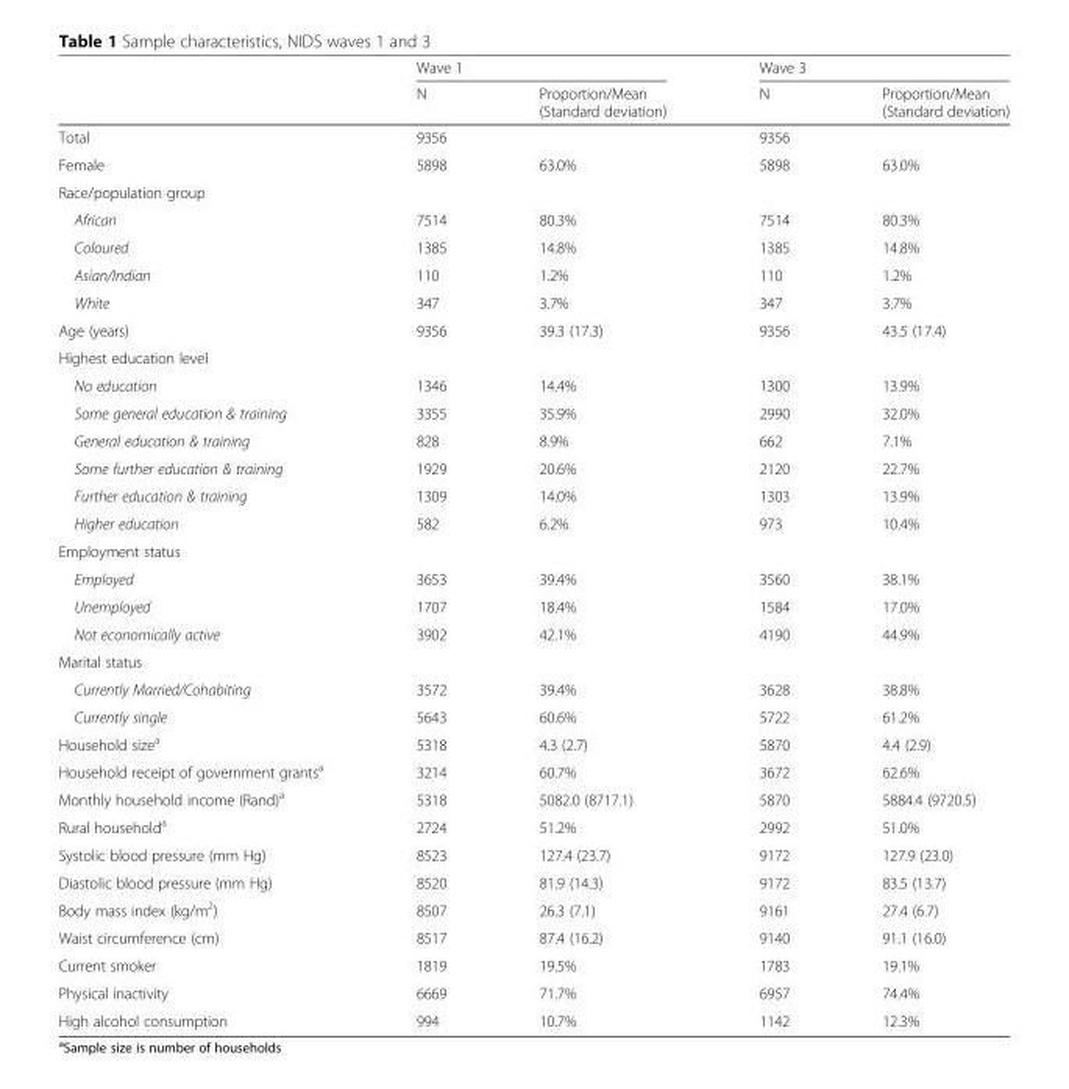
<table><thead><tr><td rowspan="2"></td><td colspan="2">Wave 1</td><td colspan="2">Wave 3</td></tr><tr><td>N</td><td>Proportion/Mean (Standard deviation)</td><td>N</td><td>Proportion/Mean (Standard deviation)</td></tr></thead><tbody><tr><td>Total</td><td>9356</td><td></td><td>9356</td><td></td></tr><tr><td>Female</td><td>5898</td><td>63.0%</td><td>5898</td><td>63.0%</td></tr><tr><td colspan="5">Race/population group</td></tr><tr><td>African</td><td>7514</td><td>80.3%</td><td>7514</td><td>80.3%</td></tr><tr><td>Coloured</td><td>1385</td><td>14.8%</td><td>1385</td><td>14.8%</td></tr><tr><td>Asian/Indian</td><td>110</td><td>1.2%</td><td>110</td><td>1.2%</td></tr><tr><td>White</td><td>347</td><td>3.7%</td><td>347</td><td>3.7%</td></tr><tr><td>Age (years)</td><td>9356</td><td>39.3 (17.3)</td><td>9356</td><td>43.5 (17.4)</td></tr><tr><td colspan="5">Highest education level</td></tr><tr><td>No education</td><td>1346</td><td>14.4%</td><td>1300</td><td>13.9%</td></tr><tr><td>Some general education &amp; training</td><td>3355</td><td>35.9%</td><td>2990</td><td>32.0%</td></tr><tr><td>General education &amp; training</td><td>828</td><td>8.9%</td><td>662</td><td>7.1%</td></tr><tr><td>Some further education &amp; training</td><td>1929</td><td>20.6%</td><td>2120</td><td>22.7%</td></tr><tr><td>Further education &amp; training</td><td>1309</td><td>14.0%</td><td>1303</td><td>13.9%</td></tr><tr><td>Higher education</td><td>582</td><td>6.2%</td><td>973</td><td>10.4%</td></tr><tr><td colspan="5">Employment status</td></tr><tr><td>Employed</td><td>3653</td><td>39.4%</td><td>3560</td><td>38.1%</td></tr><tr><td>Unemployed</td><td>1707</td><td>18.4%</td><td>1584</td><td>17.0%</td></tr><tr><td>Not economically active</td><td>3902</td><td>42.1%</td><td>4190</td><td>44.9%</td></tr><tr><td colspan="5">Marital status</td></tr><tr><td>Currently Married/Cohabiting</td><td>3572</td><td>39.4%</td><td>3628</td><td>38.8%</td></tr><tr><td>Currently single</td><td>5643</td><td>60.6%</td><td>5722</td><td>61.2%</td></tr><tr><td>Household size<sup>a</sup></td><td>5318</td><td>4.3 (2.7)</td><td>5870</td><td>4.4 (2.9)</td></tr><tr><td>Household receipt of government grants<sup>a</sup></td><td>3214</td><td>60.7%</td><td>3672</td><td>62.6%</td></tr><tr><td>Monthly household income (Rand)<sup>a</sup></td><td>5318</td><td>5082.0 (8717.1)</td><td>5870</td><td>5884.4 (9720.5)</td></tr><tr><td>Rural household<sup>a</sup></td><td>2724</td><td>51.2%</td><td>2992</td><td>51.0%</td></tr><tr><td>Systolic blood pressure (mm Hg)</td><td>8523</td><td>127.4 (23.7)</td><td>9172</td><td>127.9 (23.0)</td></tr><tr><td>Diastolic blood pressure (mm Hg)</td><td>8520</td><td>81.9 (14.3)</td><td>9172</td><td>83.5 (13.7)</td></tr><tr><td>Body mass index (kg/m<sup>2</sup>)</td><td>8507</td><td>26.3 (7.1)</td><td>9161</td><td>27.4 (6.7)</td></tr><tr><td>Waist circumference (cm)</td><td>8517</td><td>87.4 (16.2)</td><td>9140</td><td>91.1 (16.0)</td></tr><tr><td>Current smoker</td><td>1819</td><td>19.5%</td><td>1783</td><td>19.1%</td></tr><tr><td>Physical inactivity</td><td>6669</td><td>71.7%</td><td>6957</td><td>74.4%</td></tr><tr><td>High alcohol consumption</td><td>994</td><td>10.7%</td><td>1142</td><td>12.3%</td></tr></tbody></table>